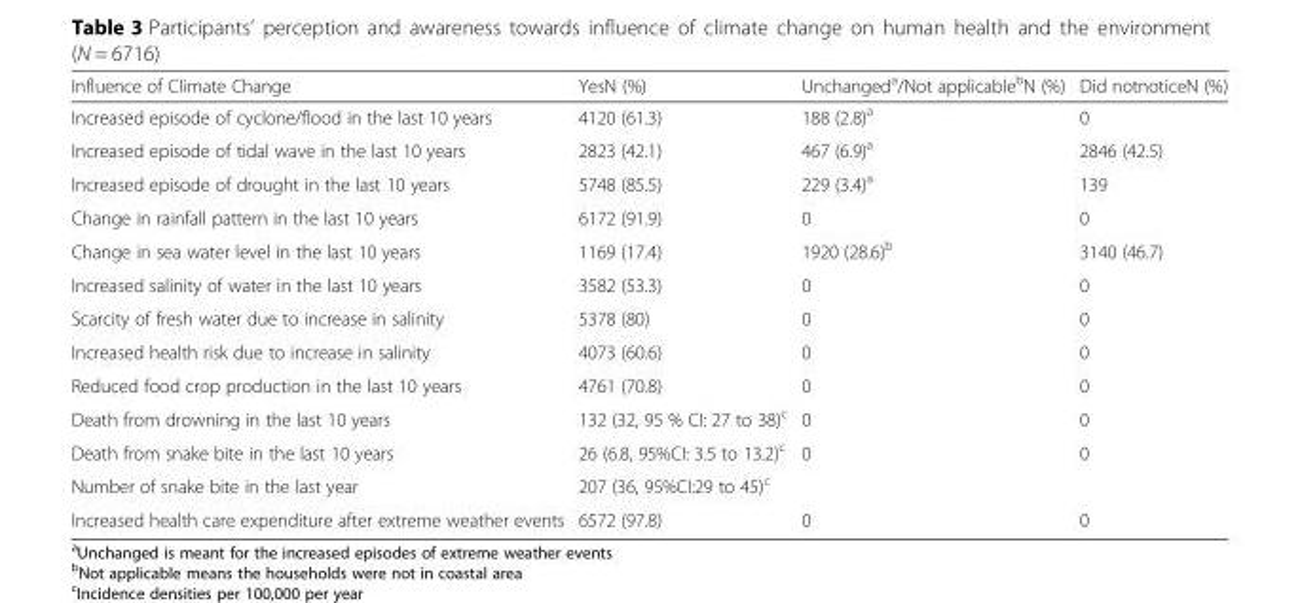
<table><thead><tr><td>Influence of Climate Change</td><td>YesN (%)</td><td>Unchanged<sup>a</sup>/Not applicable<sup>b</sup>N (%)</td><td>Did notnoticeN (%)</td></tr></thead><tbody><tr><td>Increased episode of cyclone/flood in the last 10 years</td><td>4120 (61.3)</td><td>188 (2.8)<sup>a</sup></td><td>0</td></tr><tr><td>Increased episode of tidal wave in the last 10 years</td><td>2823 (42.1)</td><td>467 (6.9)<sup>a</sup></td><td>2846 (42.5)</td></tr><tr><td>Increased episode of drought in the last 10 years</td><td>5748 (85.5)</td><td>229 (3.4)<sup>a</sup></td><td>139</td></tr><tr><td>Change in rainfall pattern in the last 10 years</td><td>6172 (91.9)</td><td>0</td><td>0</td></tr><tr><td>Change in sea water level in the last 10 years</td><td>1169 (17.4)</td><td>1920 (28.6)<sup>b</sup></td><td>3140 (46.7)</td></tr><tr><td>Increased salinity of water in the last 10 years</td><td>3582 (53.3)</td><td>0</td><td>0</td></tr><tr><td>Scarcity of fresh water due to increase in salinity</td><td>5378 (80)</td><td>0</td><td>0</td></tr><tr><td>Increased health risk due to increase in salinity</td><td>4073 (60.6)</td><td>0</td><td>0</td></tr><tr><td>Reduced food crop production in the last 10 years</td><td>4761 (70.8)</td><td>0</td><td>0</td></tr><tr><td>Death from drowning in the last 10 years</td><td>132 (32, 95 % CI: 27 to 38)<sup>c</sup></td><td>0</td><td>0</td></tr><tr><td>Death from snake bite in the last 10 years</td><td>26 (6.8, 95%CI: 3.5 to 13.2)<sup>c</sup></td><td>0</td><td>0</td></tr><tr><td>Number of snake bite in the last year</td><td>207 (36, 95%CI:29 to 45)<sup>c</sup></td><td></td><td></td></tr><tr><td>Increased health care expenditure after extreme weather events</td><td>6572 (97.8)</td><td>0</td><td>0</td></tr></tbody></table>